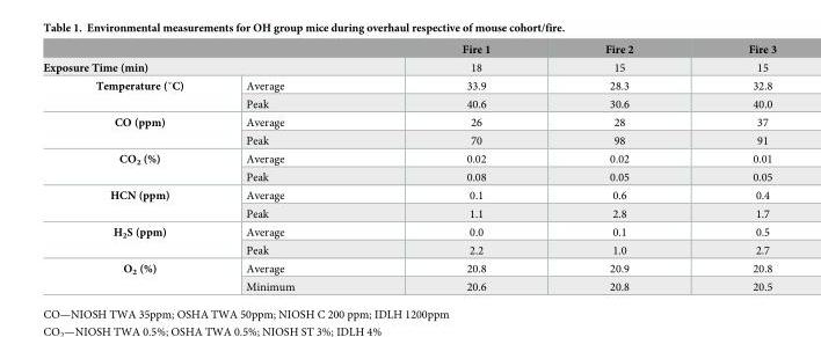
<table><thead><tr><td></td><td></td><td>Fire 1</td><td>Fire 2</td><td>Fire 3</td></tr></thead><tbody><tr><td colspan="2">Exposure Time (min)</td><td>18</td><td>15</td><td>15</td></tr><tr><td rowspan="2">Temperature (˚C)</td><td>Average</td><td>33.9</td><td>28.3</td><td>32.8</td></tr><tr><td>Peak</td><td>40.6</td><td>30.6</td><td>40.0</td></tr><tr><td rowspan="2">CO (ppm)</td><td>Average</td><td>26</td><td>28</td><td>37</td></tr><tr><td>Peak</td><td>70</td><td>98</td><td>91</td></tr><tr><td rowspan="2">CO<sub>2</sub> (%)</td><td>Average</td><td>0.02</td><td>0.02</td><td>0.01</td></tr><tr><td>Peak</td><td>0.08</td><td>0.05</td><td>0.05</td></tr><tr><td rowspan="2">HCN (ppm)</td><td>Average</td><td>0.1</td><td>0.6</td><td>0.4</td></tr><tr><td>Peak</td><td>1.1</td><td>2.8</td><td>1.7</td></tr><tr><td rowspan="2">H<sub>2</sub>S (ppm)</td><td>Average</td><td>0.0</td><td>0.1</td><td>0.5</td></tr><tr><td>Peak</td><td>2.2</td><td>1.0</td><td>2.7</td></tr><tr><td rowspan="2">O<sub>2</sub> (%)</td><td>Average</td><td>20.8</td><td>20.9</td><td>20.8</td></tr><tr><td>Minimum</td><td>20.6</td><td>20.8</td><td>20.5</td></tr></tbody></table>